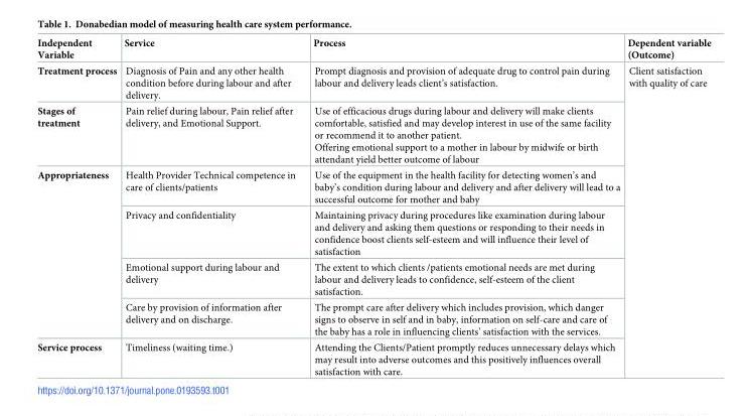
<table><thead><tr><td>Independent Variable</td><td>Service</td><td>Process</td><td>Dependent variable (Outcome)</td></tr></thead><tbody><tr><td>Treatment process</td><td>Diagnosis of Pain and any other health condition before during labour and after delivery.</td><td>Prompt diagnosis and provision of adequate drug to control pain during labour and delivery leads client’s satisfaction.</td><td rowspan="7">Client satisfaction with quality of care</td></tr><tr><td>Stages of treatment</td><td>Pain relief during labour, Pain relief after delivery, and Emotional Support.</td><td>Use of efficacious drugs during labour and delivery will make clients comfortable, satisfied and may develop interest in use of the same facility or recommend it to another patient. Offering emotional support to a mother in labour by midwife or birth attendant yield better outcome of labour</td></tr><tr><td rowspan="4">Appropriateness</td><td>Health Provider Technical competence in care of clients/patients</td><td>Use of the equipment in the health facility for detecting women’s and baby’s condition during labour and delivery and after delivery will lead to a successful outcome for mother and baby</td></tr><tr><td>Privacy and confidentiality</td><td>Maintaining privacy during procedures like examination during labour and delivery and asking them questions or responding to their needs in confidence boost clients self-esteem and will influence their level of satisfaction</td></tr><tr><td>Emotional support during labour and delivery</td><td>The extent to which clients /patients emotional needs are met during labour and delivery leads to confidence, self-esteem of the client satisfaction.</td></tr><tr><td>Care by provision of information after delivery and on discharge.</td><td>The prompt care after delivery which includes provision, which danger signs to observe in self and in baby, information on self-care and care of the baby has a role in influencing clients’ satisfaction with the services.</td></tr><tr><td>Service process</td><td>Timeliness (waiting time.)</td><td>Attending the Clients/Patient promptly reduces unnecessary delays which may result into adverse outcomes and this positively influences overall satisfaction with care.</td></tr></tbody></table>